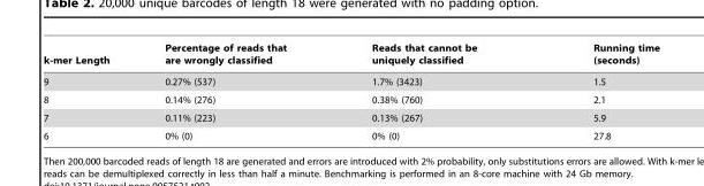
<table><thead><tr><td>k-mer Length</td><td>Percentage of reads that are wrongly classified</td><td>Reads that cannot be uniquely classified</td><td>Running time (seconds)</td></tr></thead><tbody><tr><td>9</td><td>0.27% (537)</td><td>1.7% (3423)</td><td>1.5</td></tr><tr><td>8</td><td>0.14% (276)</td><td>0.38% (760)</td><td>2.1</td></tr><tr><td>7</td><td>0.11% (223)</td><td>0.13% (267)</td><td>5.9</td></tr><tr><td>6</td><td>0% (0)</td><td>0% (0)</td><td>27.8</td></tr></tbody></table>